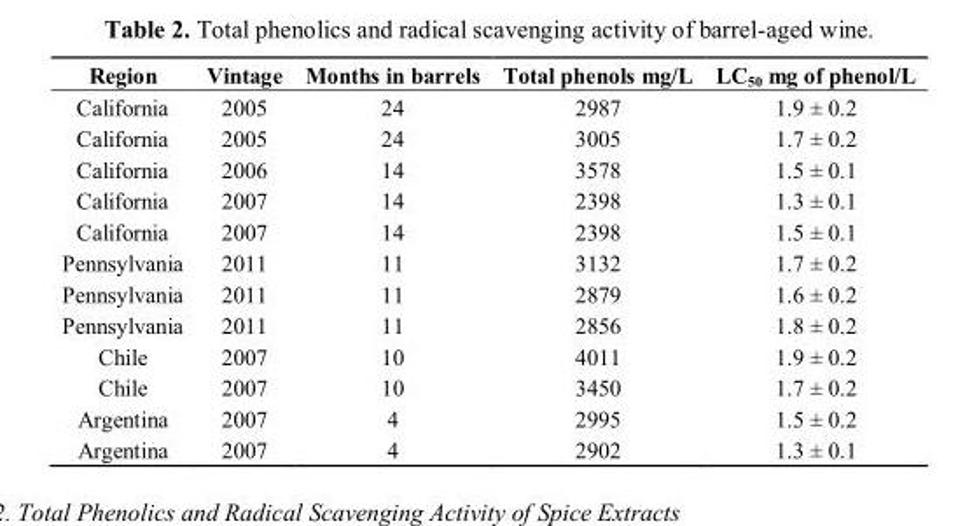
<table><thead><tr><td>Region</td><td>Vintage</td><td>Months in barrels</td><td>Total phenols mg/L</td><td>LC<sub>50</sub> mg of phenol/L</td></tr></thead><tbody><tr><td>California</td><td>2005</td><td>24</td><td>2987</td><td>1.9 ± 0.2</td></tr><tr><td>California</td><td>2005</td><td>24</td><td>3005</td><td>1.7 ± 0.2</td></tr><tr><td>California</td><td>2006</td><td>14</td><td>3578</td><td>1.5 ± 0.1</td></tr><tr><td>California</td><td>2007</td><td>14</td><td>2398</td><td>1.3 ± 0.1</td></tr><tr><td>California</td><td>2007</td><td>14</td><td>2398</td><td>1.5 ± 0.1</td></tr><tr><td>Pennsylvania</td><td>2011</td><td>11</td><td>3132</td><td>1.7 ± 0.2</td></tr><tr><td>Pennsylvania</td><td>2011</td><td>11</td><td>2879</td><td>1.6 ± 0.2</td></tr><tr><td>Pennsylvania</td><td>2011</td><td>11</td><td>2856</td><td>1.8 ± 0.2</td></tr><tr><td>Chile</td><td>2007</td><td>10</td><td>4011</td><td>1.9 ± 0.2</td></tr><tr><td>Chile</td><td>2007</td><td>10</td><td>3450</td><td>1.7 ± 0.2</td></tr><tr><td>Argentina</td><td>2007</td><td>4</td><td>2995</td><td>1.5 ± 0.2</td></tr><tr><td>Argentina</td><td>2007</td><td>4</td><td>2902</td><td>1.3 ± 0.1</td></tr></tbody></table>